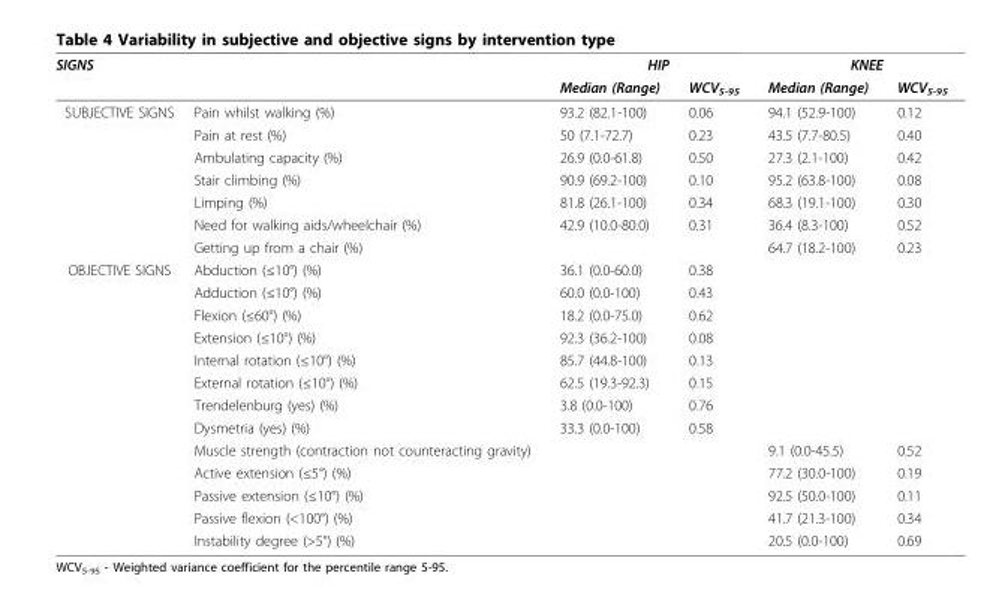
<table><thead><tr><td rowspan="2">SIGNS</td><td rowspan="2"></td><td colspan="2">HIP</td><td colspan="2">KNEE</td></tr><tr><td>Median (Range)</td><td>WCV<sub>5-95</sub></td><td>Median (Range)</td><td>WCV<sub>5-95</sub></td></tr></thead><tbody><tr><td rowspan="7">SUBJECTIVE SIGNS</td><td>Pain whilst walking (%)</td><td>93.2 (82.1-100)</td><td>0.06</td><td>94.1 (52.9-100)</td><td>0.12</td></tr><tr><td>Pain at rest (%)</td><td>50 (7.1-72.7)</td><td>0.23</td><td>43.5 (7.7-80.5)</td><td>0.40</td></tr><tr><td>Ambulating capacity (%)</td><td>26.9 (0.0-61.8)</td><td>0.50</td><td>27.3 (2.1-100)</td><td>0.42</td></tr><tr><td>Stair climbing (%)</td><td>90.9 (69.2-100)</td><td>0.10</td><td>95.2 (63.8-100)</td><td>0.08</td></tr><tr><td>Limping (%)</td><td>81.8 (26.1-100)</td><td>0.34</td><td>68.3 (19.1-100)</td><td>0.30</td></tr><tr><td>Need for walking aids/wheelchair (%)</td><td>42.9 (10.0-80.0)</td><td>0.31</td><td>36.4 (8.3-100)</td><td>0.52</td></tr><tr><td>Getting up from a chair (%)</td><td></td><td></td><td>64.7 (18.2-100)</td><td>0.23</td></tr><tr><td rowspan="13">OBJECTIVE SIGNS</td><td>Abduction (≤10°) (%)</td><td>36.1 (0.0-60.0)</td><td>0.38</td><td></td><td></td></tr><tr><td>Adduction (≤10°) (%)</td><td>60.0 (0.0-100)</td><td>0.43</td><td></td><td></td></tr><tr><td>Flexion (≤60°) (%)</td><td>18.2 (0.0-75.0)</td><td>0.62</td><td></td><td></td></tr><tr><td>Extension (≤10°) (%)</td><td>92.3 (36.2-100)</td><td>0.08</td><td></td><td></td></tr><tr><td>Internal rotation (≤10°) (%)</td><td>85.7 (44.8-100)</td><td>0.13</td><td></td><td></td></tr><tr><td>External rotation (≤10°) (%)</td><td>62.5 (19.3-92.3)</td><td>0.15</td><td></td><td></td></tr><tr><td>Trendelenburg (yes) (%)</td><td>3.8 (0.0-100)</td><td>0.76</td><td></td><td></td></tr><tr><td>Dysmetria (yes) (%)</td><td>33.3 (0.0-100)</td><td>0.58</td><td></td><td></td></tr><tr><td>Muscle strength (contraction not counteracting gravity)</td><td></td><td></td><td>9.1 (0.0-45.5)</td><td>0.52</td></tr><tr><td>Active extension (≤5°) (%)</td><td></td><td></td><td>77.2 (30.0-100)</td><td>0.19</td></tr><tr><td>Passive extension (≤10°) (%)</td><td></td><td></td><td>92.5 (50.0-100)</td><td>0.11</td></tr><tr><td>Passive flexion (&lt;100°) (%)</td><td></td><td></td><td>41.7 (21.3-100)</td><td>0.34</td></tr><tr><td>Instability degree (&gt;5°) (%)</td><td></td><td></td><td>20.5 (0.0-100)</td><td>0.69</td></tr></tbody></table>